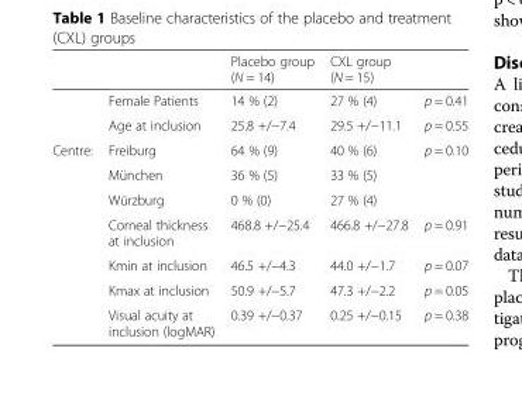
<table><thead><tr><td></td><td></td><td>Placebo group (N = 14)</td><td>CXL group (N = 15)</td><td></td></tr></thead><tbody><tr><td></td><td>Female Patients</td><td>14 % (2)</td><td>27 % (4)</td><td>p = 0.41</td></tr><tr><td></td><td>Age at inclusion</td><td>25.8 +/−7.4</td><td>29.5 +/−11.1</td><td>p = 0.55</td></tr><tr><td rowspan="7">Centre:</td><td>Freiburg</td><td>64 % (9)</td><td>40 % (6)</td><td>p = 0.10</td></tr><tr><td>München</td><td>36 % (5)</td><td>33 % (5)</td><td></td></tr><tr><td>Würzburg</td><td>0 % (0)</td><td>27 % (4)</td><td></td></tr><tr><td>Corneal thickness at inclusion</td><td>468.8 +/−25.4</td><td>466.8 +/−27.8</td><td>p = 0.91</td></tr><tr><td>Kmin at inclusion</td><td>46.5 +/−4.3</td><td>44.0 +/−1.7</td><td>p = 0.07</td></tr><tr><td>Kmax at inclusion</td><td>50.9 +/−5.7</td><td>47.3 +/−2.2</td><td>p = 0.05</td></tr><tr><td>Visual acuity at inclusion (logMAR)</td><td>0.39 +/−0.37</td><td>0.25 +/−0.15</td><td>p = 0.38</td></tr></tbody></table>